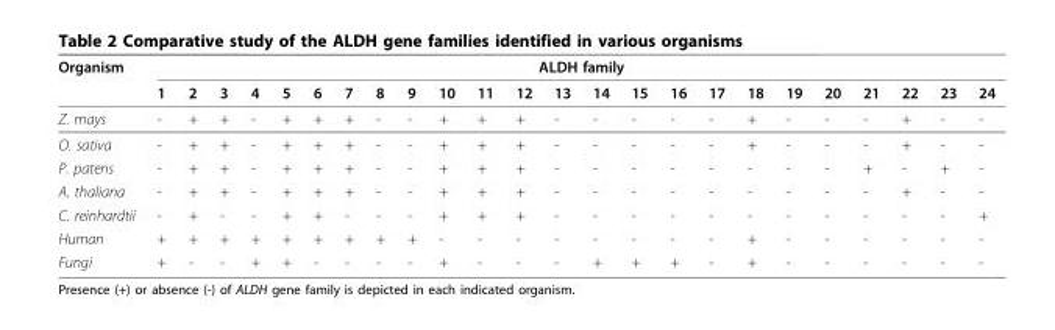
<table><thead><tr><td rowspan="2">Organism</td><td colspan="24">ALDH family</td></tr><tr><td>1</td><td>2</td><td>3</td><td>4</td><td>5</td><td>6</td><td>7</td><td>8</td><td>9</td><td>10</td><td>11</td><td>12</td><td>13</td><td>14</td><td>15</td><td>16</td><td>17</td><td>18</td><td>19</td><td>20</td><td>21</td><td>22</td><td>23</td><td>24</td></tr></thead><tbody><tr><td>Z. mays</td><td>-</td><td>+</td><td>+</td><td>-</td><td>+</td><td>+</td><td>+</td><td>-</td><td>-</td><td>+</td><td>+</td><td>+</td><td>-</td><td>-</td><td>-</td><td>-</td><td>-</td><td>+</td><td>-</td><td>-</td><td>-</td><td>+</td><td>-</td><td>-</td></tr><tr><td>O. sativa</td><td>-</td><td>+</td><td>+</td><td>-</td><td>+</td><td>+</td><td>+</td><td>-</td><td>-</td><td>+</td><td>+</td><td>+</td><td>-</td><td>-</td><td>-</td><td>-</td><td>-</td><td>+</td><td>-</td><td>-</td><td>-</td><td>+</td><td>-</td><td>-</td></tr><tr><td>P. patens</td><td>-</td><td>+</td><td>+</td><td>-</td><td>+</td><td>+</td><td>+</td><td>-</td><td>-</td><td>+</td><td>+</td><td>+</td><td>-</td><td>-</td><td>-</td><td>-</td><td>-</td><td>-</td><td>-</td><td>-</td><td>+</td><td>-</td><td>+</td><td>-</td></tr><tr><td>A. thaliana</td><td>-</td><td>+</td><td>+</td><td>-</td><td>+</td><td>+</td><td>+</td><td>-</td><td>-</td><td>+</td><td>+</td><td>+</td><td>-</td><td>-</td><td>-</td><td>-</td><td>-</td><td>-</td><td>-</td><td>-</td><td>-</td><td>+</td><td>-</td><td>-</td></tr><tr><td>C. reinhardtii</td><td>-</td><td>+</td><td>-</td><td>-</td><td>+</td><td>+</td><td>-</td><td>-</td><td>-</td><td>+</td><td>+</td><td>+</td><td>-</td><td>-</td><td>-</td><td>-</td><td>-</td><td>-</td><td>-</td><td>-</td><td>-</td><td>-</td><td>-</td><td>+</td></tr><tr><td>Human</td><td>+</td><td>+</td><td>+</td><td>+</td><td>+</td><td>+</td><td>+</td><td>+</td><td>+</td><td>-</td><td>-</td><td>-</td><td>-</td><td>-</td><td>-</td><td>-</td><td>-</td><td>+</td><td>-</td><td>-</td><td>-</td><td>-</td><td>-</td><td>-</td></tr><tr><td>Fungi</td><td>+</td><td>-</td><td>-</td><td>+</td><td>+</td><td>-</td><td>-</td><td>-</td><td>-</td><td>+</td><td>-</td><td>-</td><td>-</td><td>+</td><td>+</td><td>+</td><td>-</td><td>+</td><td>-</td><td>-</td><td>-</td><td>-</td><td>-</td><td>-</td></tr></tbody></table>